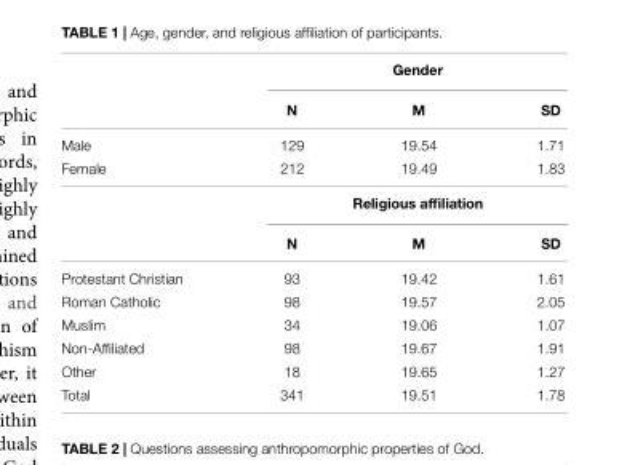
<table><thead><tr><td rowspan="2"></td><td colspan="3">Gender</td></tr><tr><td>N</td><td>M</td><td>SD</td></tr></thead><tbody><tr><td>Male</td><td>129</td><td>19.54</td><td>1.71</td></tr><tr><td rowspan="3">Female</td><td>212</td><td>19.49</td><td>1.83</td></tr><tr><td colspan="3">Religious affiliation</td></tr><tr><td>N</td><td>M</td><td>SD</td></tr><tr><td>Protestant Christian</td><td>93</td><td>19.42</td><td>1.61</td></tr><tr><td>Roman Catholic</td><td>98</td><td>19.57</td><td>2.05</td></tr><tr><td>Muslim</td><td>34</td><td>19.06</td><td>1.07</td></tr><tr><td>Non-Affiliated</td><td>98</td><td>19.67</td><td>1.91</td></tr><tr><td>Other</td><td>18</td><td>19.65</td><td>1.27</td></tr><tr><td>Total</td><td>341</td><td>19.51</td><td>1.78</td></tr></tbody></table>